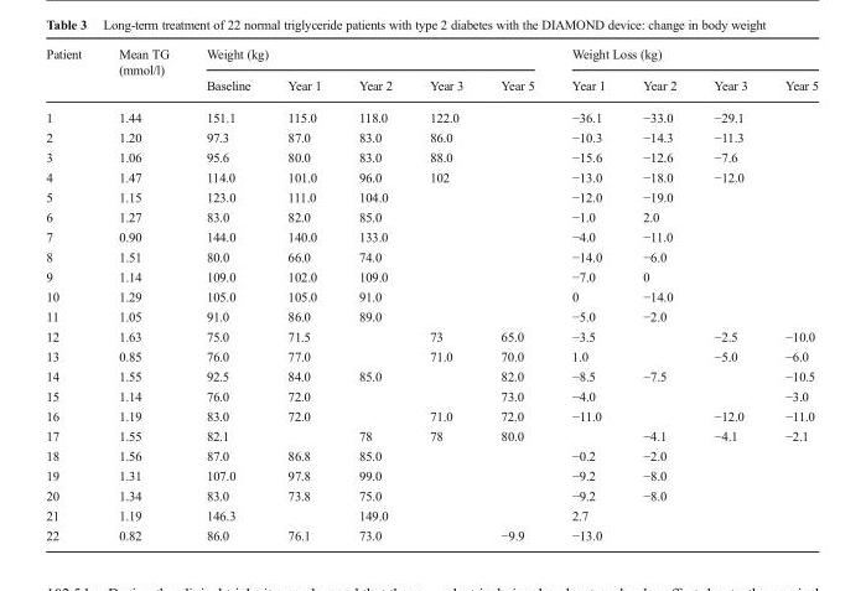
<table><thead><tr><td rowspan="2">Patient</td><td rowspan="2">Mean TG (mmol/l)</td><td colspan="5">Weight (kg)</td><td colspan="4">Weight Loss (kg)</td></tr><tr><td>Baseline</td><td>Year 1</td><td>Year 2</td><td>Year 3</td><td>Year 5</td><td>Year 1</td><td>Year 2</td><td>Year 3</td><td>Year 5</td></tr></thead><tbody><tr><td>1</td><td>1.44</td><td>151.1</td><td>115.0</td><td>118.0</td><td>122.0</td><td></td><td>−36.1</td><td>−33.0</td><td>−29.1</td><td></td></tr><tr><td>2</td><td>1.20</td><td>97.3</td><td>87.0</td><td>83.0</td><td>86.0</td><td></td><td>−10.3</td><td>−14.3</td><td>−11.3</td><td></td></tr><tr><td>3</td><td>1.06</td><td>95.6</td><td>80.0</td><td>83.0</td><td>88.0</td><td></td><td>−15.6</td><td>−12.6</td><td>−7.6</td><td></td></tr><tr><td>4</td><td>1.47</td><td>114.0</td><td>101.0</td><td>96.0</td><td>102</td><td></td><td>−13.0</td><td>−18.0</td><td>−12.0</td><td></td></tr><tr><td>5</td><td>1.15</td><td>123.0</td><td>111.0</td><td>104.0</td><td></td><td></td><td>−12.0</td><td>−19.0</td><td></td><td></td></tr><tr><td>6</td><td>1.27</td><td>83.0</td><td>82.0</td><td>85.0</td><td></td><td></td><td>−1.0</td><td>2.0</td><td></td><td></td></tr><tr><td>7</td><td>0.90</td><td>144.0</td><td>140.0</td><td>133.0</td><td></td><td></td><td>−4.0</td><td>−11.0</td><td></td><td></td></tr><tr><td>8</td><td>1.51</td><td>80.0</td><td>66.0</td><td>74.0</td><td></td><td></td><td>−14.0</td><td>−6.0</td><td></td><td></td></tr><tr><td>9</td><td>1.14</td><td>109.0</td><td>102.0</td><td>109.0</td><td></td><td></td><td>−7.0</td><td>0</td><td></td><td></td></tr><tr><td>10</td><td>1.29</td><td>105.0</td><td>105.0</td><td>91.0</td><td></td><td></td><td>0</td><td>−14.0</td><td></td><td></td></tr><tr><td>11</td><td>1.05</td><td>91.0</td><td>86.0</td><td>89.0</td><td></td><td></td><td>−5.0</td><td>−2.0</td><td></td><td></td></tr><tr><td>12</td><td>1.63</td><td>75.0</td><td>71.5</td><td></td><td>73</td><td>65.0</td><td>−3.5</td><td></td><td>−2.5</td><td>−10.0</td></tr><tr><td>13</td><td>0.85</td><td>76.0</td><td>77.0</td><td></td><td>71.0</td><td>70.0</td><td>1.0</td><td></td><td>−5.0</td><td>−6.0</td></tr><tr><td>14</td><td>1.55</td><td>92.5</td><td>84.0</td><td>85.0</td><td></td><td>82.0</td><td>−8.5</td><td>−7.5</td><td></td><td>−10.5</td></tr><tr><td>15</td><td>1.14</td><td>76.0</td><td>72.0</td><td></td><td></td><td>73.0</td><td>−4.0</td><td></td><td></td><td>−3.0</td></tr><tr><td>16</td><td>1.19</td><td>83.0</td><td>72.0</td><td></td><td>71.0</td><td>72.0</td><td>−11.0</td><td></td><td>−12.0</td><td>−11.0</td></tr><tr><td>17</td><td>1.55</td><td>82.1</td><td></td><td>78</td><td>78</td><td>80.0</td><td></td><td>−4.1</td><td>−4.1</td><td>−2.1</td></tr><tr><td>18</td><td>1.56</td><td>87.0</td><td>86.8</td><td>85.0</td><td></td><td></td><td>−0.2</td><td>−2.0</td><td></td><td></td></tr><tr><td>19</td><td>1.31</td><td>107.0</td><td>97.8</td><td>99.0</td><td></td><td></td><td>−9.2</td><td>−8.0</td><td></td><td></td></tr><tr><td>20</td><td>1.34</td><td>83.0</td><td>73.8</td><td>75.0</td><td></td><td></td><td>−9.2</td><td>−8.0</td><td></td><td></td></tr><tr><td>21</td><td>1.19</td><td>146.3</td><td></td><td>149.0</td><td></td><td></td><td>2.7</td><td></td><td></td><td></td></tr><tr><td>22</td><td>0.82</td><td>86.0</td><td>76.1</td><td>73.0</td><td></td><td>−9.9</td><td>−13.0</td><td></td><td></td><td></td></tr></tbody></table>